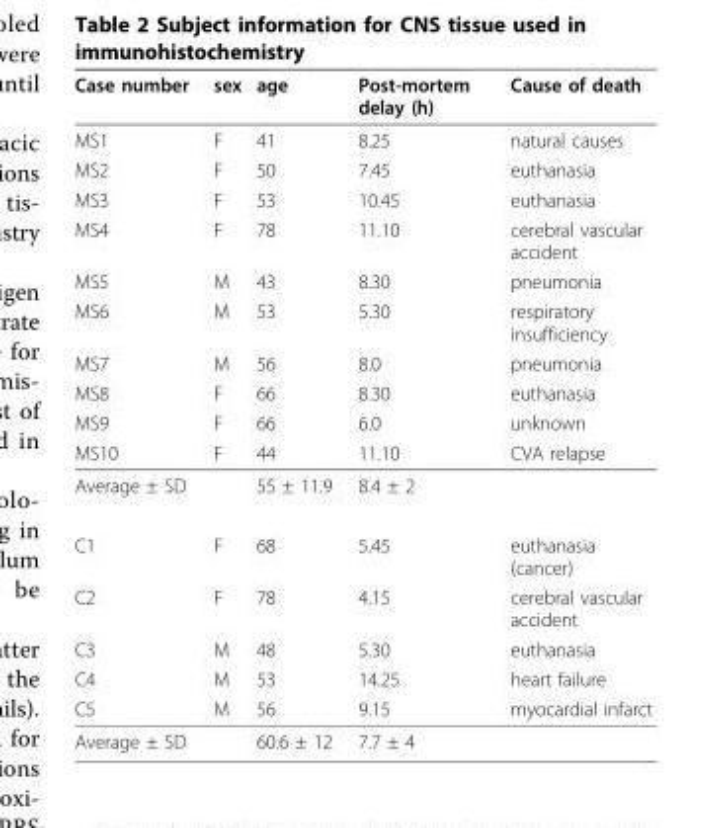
<table><thead><tr><td>Case number</td><td>sex</td><td>age</td><td>Post-mortem delay (h)</td><td>Cause of death</td></tr></thead><tbody><tr><td>MS1</td><td>F</td><td>41</td><td>8.25</td><td>natural causes</td></tr><tr><td>MS2</td><td>F</td><td>50</td><td>7.45</td><td>euthanasia</td></tr><tr><td>MS3</td><td>F</td><td>53</td><td>10.45</td><td>euthanasia</td></tr><tr><td>MS4</td><td>F</td><td>78</td><td>11.10</td><td>cerebral vascular accident</td></tr><tr><td>MS5</td><td>M</td><td>43</td><td>8.30</td><td>pneumonia</td></tr><tr><td>MS6</td><td>M</td><td>53</td><td>5.30</td><td>respiratory insufficiency</td></tr><tr><td>MS7</td><td>M</td><td>56</td><td>8.0</td><td>pneumonia</td></tr><tr><td>MS8</td><td>F</td><td>66</td><td>8.30</td><td>euthanasia</td></tr><tr><td>MS9</td><td>F</td><td>66</td><td>6.0</td><td>unknown</td></tr><tr><td>MS10</td><td>F</td><td>44</td><td>11.10</td><td>CVA relapse</td></tr><tr><td>Average ± SD</td><td></td><td>55 ± 11.9</td><td>8.4 ± 2</td><td></td></tr><tr><td>C1</td><td>F</td><td>68</td><td>5.45</td><td>euthanasia (cancer)</td></tr><tr><td>C2</td><td>F</td><td>78</td><td>4.15</td><td>cerebral vascular accident</td></tr><tr><td>C3</td><td>M</td><td>48</td><td>5.30</td><td>euthanasia</td></tr><tr><td>C4</td><td>M</td><td>53</td><td>14.25</td><td>heart failure</td></tr><tr><td>C5</td><td>M</td><td>56</td><td>9.15</td><td>myocardial infarct</td></tr><tr><td>Average ± SD</td><td></td><td>60.6 ± 12</td><td>7.7 ± 4</td><td></td></tr></tbody></table>